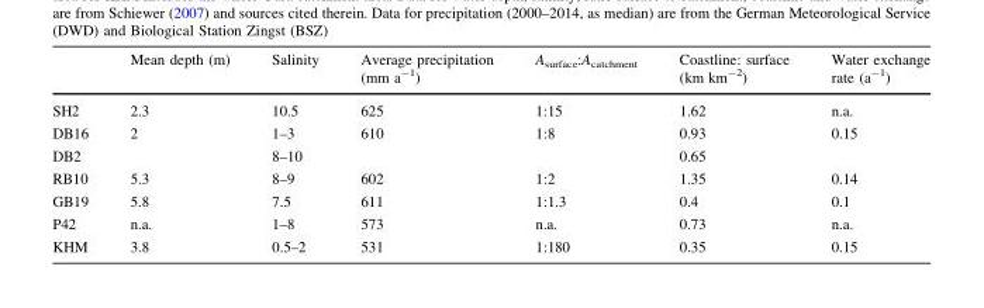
<table><thead><tr><td></td><td>Mean depth (m)</td><td>Salinity</td><td>Average precipitation (mm a<sup>-1</sup>)</td><td>A<sub>surface</sub>:A<sub>catchment</sub></td><td>Coastline: surface (km km<sup>-2</sup>)</td><td>Water exchange rate (a<sup>-1</sup>)</td></tr></thead><tbody><tr><td>SH2</td><td>2.3</td><td>10.5</td><td>625</td><td>1:15</td><td>1.62</td><td>n.a.</td></tr><tr><td>DB16</td><td rowspan="2">2</td><td>1–3</td><td rowspan="2">610</td><td rowspan="2">1:8</td><td>0.93</td><td rowspan="2">0.15</td></tr><tr><td>DB2</td><td>8–10</td><td>0.65</td></tr><tr><td>RB10</td><td>5.3</td><td>8–9</td><td>602</td><td>1:2</td><td>1.35</td><td>0.14</td></tr><tr><td>GB19</td><td>5.8</td><td>7.5</td><td>611</td><td>1:1.3</td><td>0.4</td><td>0.1</td></tr><tr><td>P42</td><td>n.a.</td><td>1–8</td><td>573</td><td>n.a.</td><td>0.73</td><td>n.a.</td></tr><tr><td>KHM</td><td>3.8</td><td>0.5–2</td><td>531</td><td>1:180</td><td>0.35</td><td>0.15</td></tr></tbody></table>